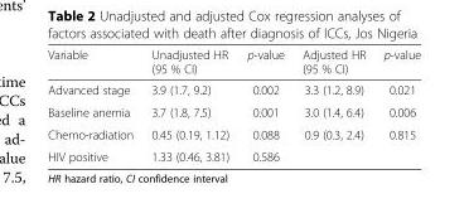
<table><thead><tr><td>Variable</td><td>Unadjusted HR (95 % CI)</td><td>p-value</td><td>Adjusted HR (95 % CI)</td><td>p-value</td></tr></thead><tbody><tr><td>Advanced stage</td><td>3.9 (1.7, 9.2)</td><td>0.002</td><td>3.3 (1.2, 8.9)</td><td>0.021</td></tr><tr><td>Baseline anemia</td><td>3.7 (1.8, 7.5)</td><td>0.001</td><td>3.0 (1.4, 6.4)</td><td>0.006</td></tr><tr><td>Chemo-radiation</td><td>0.45 (0.19, 1.12)</td><td>0.088</td><td>0.9 (0.3, 2.4)</td><td>0.815</td></tr><tr><td>HIV positive</td><td>1.33 (0.46, 3.81)</td><td>0.586</td><td></td><td></td></tr></tbody></table>